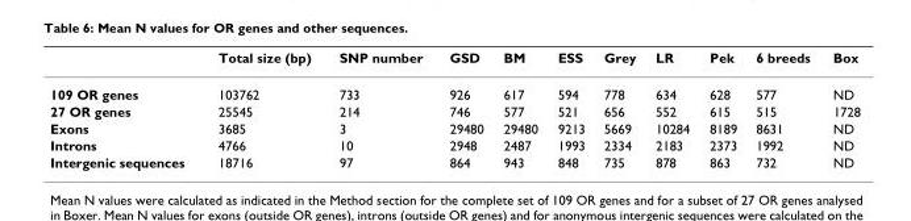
<table><thead><tr><td></td><td>Total size (bp)</td><td>SNP number</td><td>GSD</td><td>BM</td><td>ESS</td><td>Grey</td><td>LR</td><td>Pek</td><td>6 breeds</td><td>Box</td></tr></thead><tbody><tr><td>109 OR genes</td><td>103762</td><td>733</td><td>926</td><td>617</td><td>594</td><td>778</td><td>634</td><td>628</td><td>577</td><td>ND</td></tr><tr><td>27 OR genes</td><td>25545</td><td>214</td><td>746</td><td>577</td><td>521</td><td>656</td><td>552</td><td>615</td><td>515</td><td>1728</td></tr><tr><td>Exons</td><td>3685</td><td>3</td><td>29480</td><td>29480</td><td>9213</td><td>5669</td><td>10284</td><td>8189</td><td>8631</td><td>ND</td></tr><tr><td>Introns</td><td>4766</td><td>10</td><td>2948</td><td>2487</td><td>1993</td><td>2334</td><td>2183</td><td>2373</td><td>1992</td><td>ND</td></tr><tr><td>Intergenic sequences</td><td>18716</td><td>97</td><td>864</td><td>943</td><td>848</td><td>735</td><td>878</td><td>863</td><td>732</td><td>ND</td></tr></tbody></table>